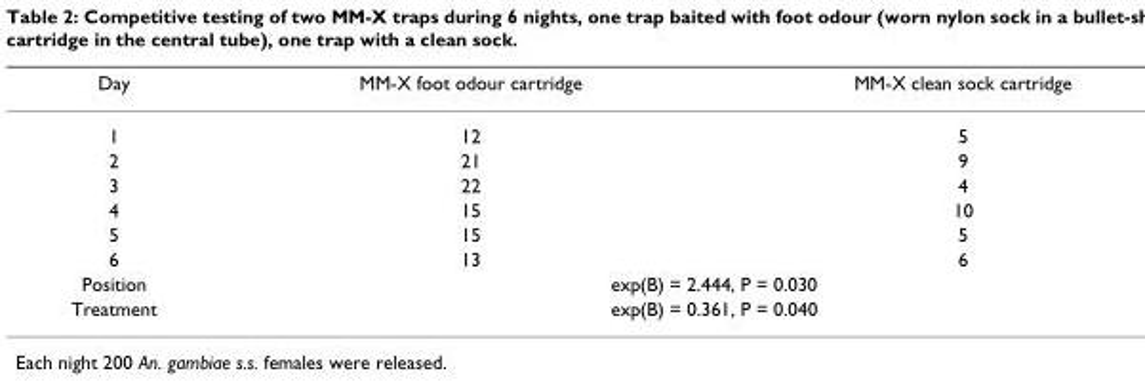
<table><thead><tr><td>Day</td><td>MM-X foot odour cartridge</td><td>MM-X clean sock cartridge</td></tr></thead><tbody><tr><td>1</td><td>12</td><td>5</td></tr><tr><td>2</td><td>21</td><td>9</td></tr><tr><td>3</td><td>22</td><td>4</td></tr><tr><td>4</td><td>15</td><td>10</td></tr><tr><td>5</td><td>15</td><td>5</td></tr><tr><td>6</td><td>13</td><td>6</td></tr><tr><td>Position</td><td colspan="2">exp(B) = 2.444, P = 0.030</td></tr><tr><td>Treatment</td><td colspan="2">exp(B) = 0.361, P = 0.040</td></tr></tbody></table>